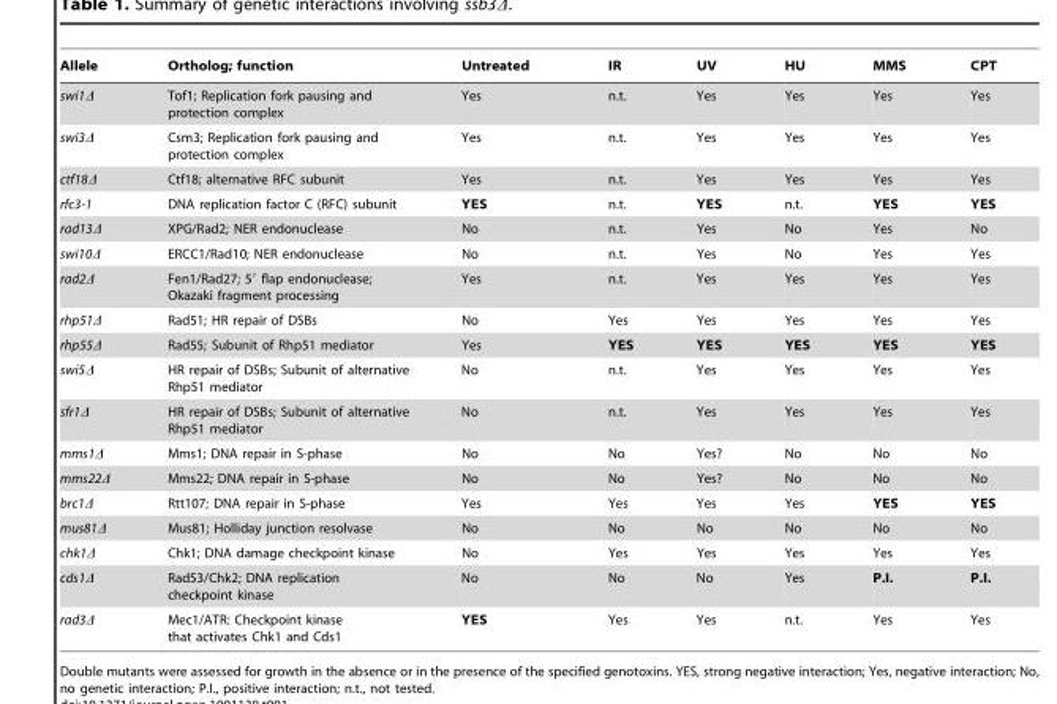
<table><thead><tr><td>Allele</td><td>Ortholog; function</td><td>Untreated</td><td>IR</td><td>UV</td><td>HU</td><td>MMS</td><td>CPT</td></tr></thead><tbody><tr><td>swi1Δ</td><td>Tof1; Replication fork pausing and protection complex</td><td>Yes</td><td>n.t.</td><td>Yes</td><td>Yes</td><td>Yes</td><td>Yes</td></tr><tr><td>swi3Δ</td><td>Csm3; Replication fork pausing and protection complex</td><td>Yes</td><td>n.t.</td><td>Yes</td><td>Yes</td><td>Yes</td><td>Yes</td></tr><tr><td>ctf18Δ</td><td>Ctf18; alternative RFC subunit</td><td>Yes</td><td>n.t.</td><td>Yes</td><td>Yes</td><td>Yes</td><td>Yes</td></tr><tr><td>rfc3-1</td><td>DNA replication factor C (RFC) subunit</td><td>YES</td><td>n.t.</td><td>YES</td><td>n.t.</td><td>YES</td><td>YES</td></tr><tr><td>rad13Δ</td><td>XPG/Rad2; NER endonuclease</td><td>No</td><td>n.t.</td><td>Yes</td><td>No</td><td>Yes</td><td>No</td></tr><tr><td>swi10Δ</td><td>ERCC1/Rad10; NER endonuclease</td><td>No</td><td>n.t.</td><td>Yes</td><td>No</td><td>Yes</td><td>Yes</td></tr><tr><td>rad2Δ</td><td>Fen1/Rad27; 5′ flap endonuclease; Okazaki fragment processing</td><td>Yes</td><td>n.t.</td><td>Yes</td><td>Yes</td><td>Yes</td><td>Yes</td></tr><tr><td>rhp51Δ</td><td>Rad51; HR repair of DSBs</td><td>No</td><td>Yes</td><td>Yes</td><td>Yes</td><td>Yes</td><td>Yes</td></tr><tr><td>rhp55Δ</td><td>Rad55; Subunit of Rhp51 mediator</td><td>Yes</td><td>YES</td><td>YES</td><td>YES</td><td>YES</td><td>YES</td></tr><tr><td>swi5Δ</td><td>HR repair of DSBs; Subunit of alternative Rhp51 mediator</td><td>No</td><td>n.t.</td><td>Yes</td><td>Yes</td><td>Yes</td><td>Yes</td></tr><tr><td>sfr1Δ</td><td>HR repair of DSBs; Subunit of alternative Rhp51 mediator</td><td>No</td><td>n.t.</td><td>Yes</td><td>Yes</td><td>Yes</td><td>Yes</td></tr><tr><td>mms1Δ</td><td>Mms1; DNA repair in S-phase</td><td>No</td><td>No</td><td>Yes?</td><td>No</td><td>No</td><td>No</td></tr><tr><td>mms22Δ</td><td>Mms22; DNA repair in S-phase</td><td>No</td><td>No</td><td>Yes?</td><td>No</td><td>No</td><td>No</td></tr><tr><td>brc1Δ</td><td>Rtt107; DNA repair in S-phase</td><td>Yes</td><td>Yes</td><td>Yes</td><td>Yes</td><td>YES</td><td>YES</td></tr><tr><td>mus81Δ</td><td>Mus81; Holliday junction resolvase</td><td>No</td><td>No</td><td>No</td><td>No</td><td>No</td><td>No</td></tr><tr><td>chk1Δ</td><td>Chk1; DNA damage checkpoint kinase</td><td>No</td><td>Yes</td><td>Yes</td><td>Yes</td><td>Yes</td><td>Yes</td></tr><tr><td>cds1Δ</td><td>Rad53/Chk2; DNA replication checkpoint kinase</td><td>No</td><td>No</td><td>No</td><td>Yes</td><td>P.I.</td><td>P.I.</td></tr><tr><td>rad3Δ</td><td>Mec1/ATR: Checkpoint kinase that activates Chk1 and Cds1</td><td>YES</td><td>Yes</td><td>Yes</td><td>n.t.</td><td>Yes</td><td>Yes</td></tr></tbody></table>